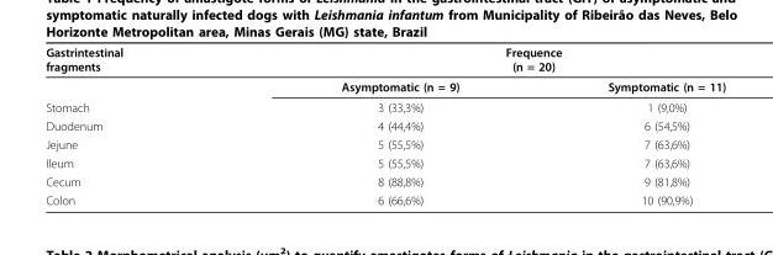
<table><thead><tr><td rowspan="2">Gastrintestinal fragments</td><td colspan="2">Frequence (n = 20)</td></tr><tr><td>Asymptomatic (n = 9)</td><td>Symptomatic (n = 11)</td></tr></thead><tbody><tr><td>Stomach</td><td>3 (33,3%)</td><td>1 (9,0%)</td></tr><tr><td>Duodenum</td><td>4 (44,4%)</td><td>6 (54,5%)</td></tr><tr><td>Jejune</td><td>5 (55,5%)</td><td>7 (63,6%)</td></tr><tr><td>Ileum</td><td>5 (55,5%)</td><td>7 (63,6%)</td></tr><tr><td>Cecum</td><td>8 (88,8%)</td><td>9 (81,8%)</td></tr><tr><td>Colon</td><td>6 (66,6%)</td><td>10 (90,9%)</td></tr></tbody></table>